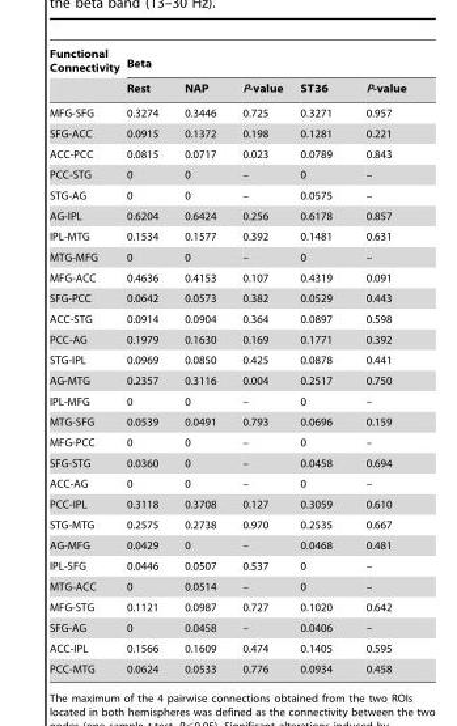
<table><thead><tr><td rowspan="2">Functional Connectivity</td><td colspan="5">Beta</td></tr><tr><td>Rest</td><td>NAP</td><td>P-value</td><td>ST36</td><td>P-value</td></tr></thead><tbody><tr><td>MFG-SFG</td><td>0.3274</td><td>0.3446</td><td>0.725</td><td>0.3271</td><td>0.957</td></tr><tr><td>SFG-ACC</td><td>0.0915</td><td>0.1372</td><td>0.198</td><td>0.1281</td><td>0.221</td></tr><tr><td>ACC-PCC</td><td>0.0815</td><td>0.0717</td><td>0.023</td><td>0.0789</td><td>0.843</td></tr><tr><td>PCC-STG</td><td>0</td><td>0</td><td>–</td><td>0</td><td>–</td></tr><tr><td>STG-AG</td><td>0</td><td>0</td><td>–</td><td>0.0575</td><td>–</td></tr><tr><td>AG-IPL</td><td>0.6204</td><td>0.6424</td><td>0.256</td><td>0.6178</td><td>0.857</td></tr><tr><td>IPL-MTG</td><td>0.1534</td><td>0.1577</td><td>0.392</td><td>0.1481</td><td>0.631</td></tr><tr><td>MTG-MFG</td><td>0</td><td>0</td><td>–</td><td>0</td><td>–</td></tr><tr><td>MFG-ACC</td><td>0.4636</td><td>0.4153</td><td>0.107</td><td>0.4319</td><td>0.091</td></tr><tr><td>SFG-PCC</td><td>0.0642</td><td>0.0573</td><td>0.382</td><td>0.0529</td><td>0.443</td></tr><tr><td>ACC-STG</td><td>0.0914</td><td>0.0904</td><td>0.364</td><td>0.0897</td><td>0.598</td></tr><tr><td>PCC-AG</td><td>0.1979</td><td>0.1630</td><td>0.169</td><td>0.1771</td><td>0.392</td></tr><tr><td>STG-IPL</td><td>0.0969</td><td>0.0850</td><td>0.425</td><td>0.0878</td><td>0.441</td></tr><tr><td>AG-MTG</td><td>0.2357</td><td>0.3116</td><td>0.004</td><td>0.2517</td><td>0.750</td></tr><tr><td>IPL-MFG</td><td>0</td><td>0</td><td>–</td><td>0</td><td>–</td></tr><tr><td>MTG-SFG</td><td>0.0539</td><td>0.0491</td><td>0.793</td><td>0.0696</td><td>0.159</td></tr><tr><td>MFG-PCC</td><td>0</td><td>0</td><td>–</td><td>0</td><td>–</td></tr><tr><td>SFG-STG</td><td>0.0360</td><td>0</td><td>–</td><td>0.0458</td><td>0.694</td></tr><tr><td>ACC-AG</td><td>0</td><td>0</td><td>–</td><td>0</td><td>–</td></tr><tr><td>PCC-IPL</td><td>0.3118</td><td>0.3708</td><td>0.127</td><td>0.3059</td><td>0.610</td></tr><tr><td>STG-MTG</td><td>0.2575</td><td>0.2738</td><td>0.970</td><td>0.2535</td><td>0.667</td></tr><tr><td>AG-MFG</td><td>0.0429</td><td>0</td><td>–</td><td>0.0468</td><td>0.481</td></tr><tr><td>IPL-SFG</td><td>0.0446</td><td>0.0507</td><td>0.537</td><td>0</td><td>–</td></tr><tr><td>MTG-ACC</td><td>0</td><td>0.0514</td><td>–</td><td>0</td><td>–</td></tr><tr><td>MFG-STG</td><td>0.1121</td><td>0.0987</td><td>0.727</td><td>0.1020</td><td>0.642</td></tr><tr><td>SFG-AG</td><td>0</td><td>0.0458</td><td>–</td><td>0.0406</td><td>–</td></tr><tr><td>ACC-IPL</td><td>0.1566</td><td>0.1609</td><td>0.474</td><td>0.1405</td><td>0.595</td></tr><tr><td>PCC-MTG</td><td>0.0624</td><td>0.0533</td><td>0.776</td><td>0.0934</td><td>0.458</td></tr></tbody></table>